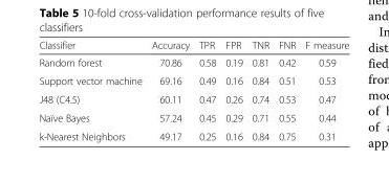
<table><thead><tr><td>Classifier</td><td>Accuracy</td><td>TPR</td><td>FPR</td><td>TNR</td><td>FNR</td><td>F measure</td></tr></thead><tbody><tr><td>Random forest</td><td>70.86</td><td>0.58</td><td>0.19</td><td>0.81</td><td>0.42</td><td>0.59</td></tr><tr><td>Support vector machine</td><td>69.16</td><td>0.49</td><td>0.16</td><td>0.84</td><td>0.51</td><td>0.53</td></tr><tr><td>J48 (C4.5)</td><td>60.11</td><td>0.47</td><td>0.26</td><td>0.74</td><td>0.53</td><td>0.47</td></tr><tr><td>Naïve Bayes</td><td>57.24</td><td>0.45</td><td>0.29</td><td>0.71</td><td>0.55</td><td>0.44</td></tr><tr><td>k-Nearest Neighbors</td><td>49.17</td><td>0.25</td><td>0.16</td><td>0.84</td><td>0.75</td><td>0.31</td></tr></tbody></table>